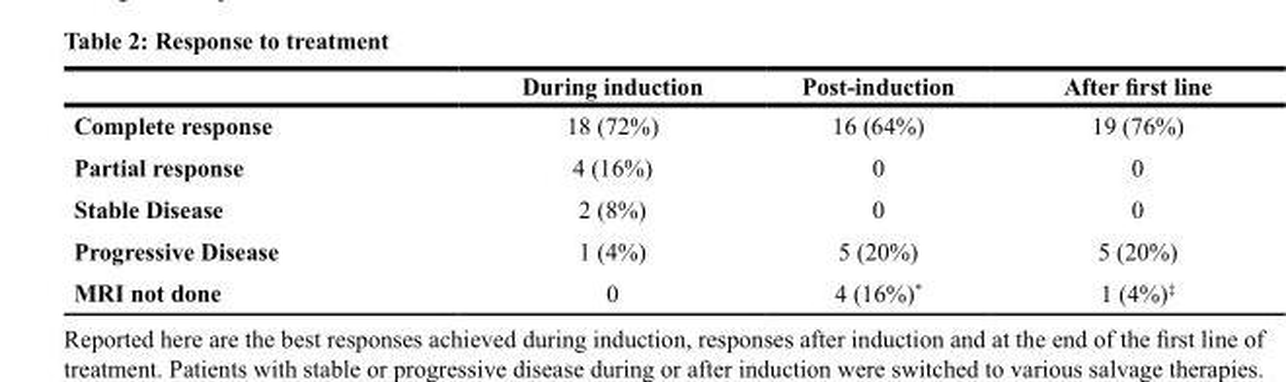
<table><thead><tr><td></td><td>During induction</td><td>Post-induction</td><td>After first line</td></tr></thead><tbody><tr><td>Complete response</td><td>18 (72%)</td><td>16 (64%)</td><td>19 (76%)</td></tr><tr><td>Partial response</td><td>4 (16%)</td><td>0</td><td>0</td></tr><tr><td>Stable Disease</td><td>2 (8%)</td><td>0</td><td>0</td></tr><tr><td>Progressive Disease</td><td>1 (4%)</td><td>5 (20%)</td><td>5 (20%)</td></tr><tr><td>MRI not done</td><td>0</td><td>4 (16%)*</td><td>1 (4%)<sup>‡</sup></td></tr></tbody></table>